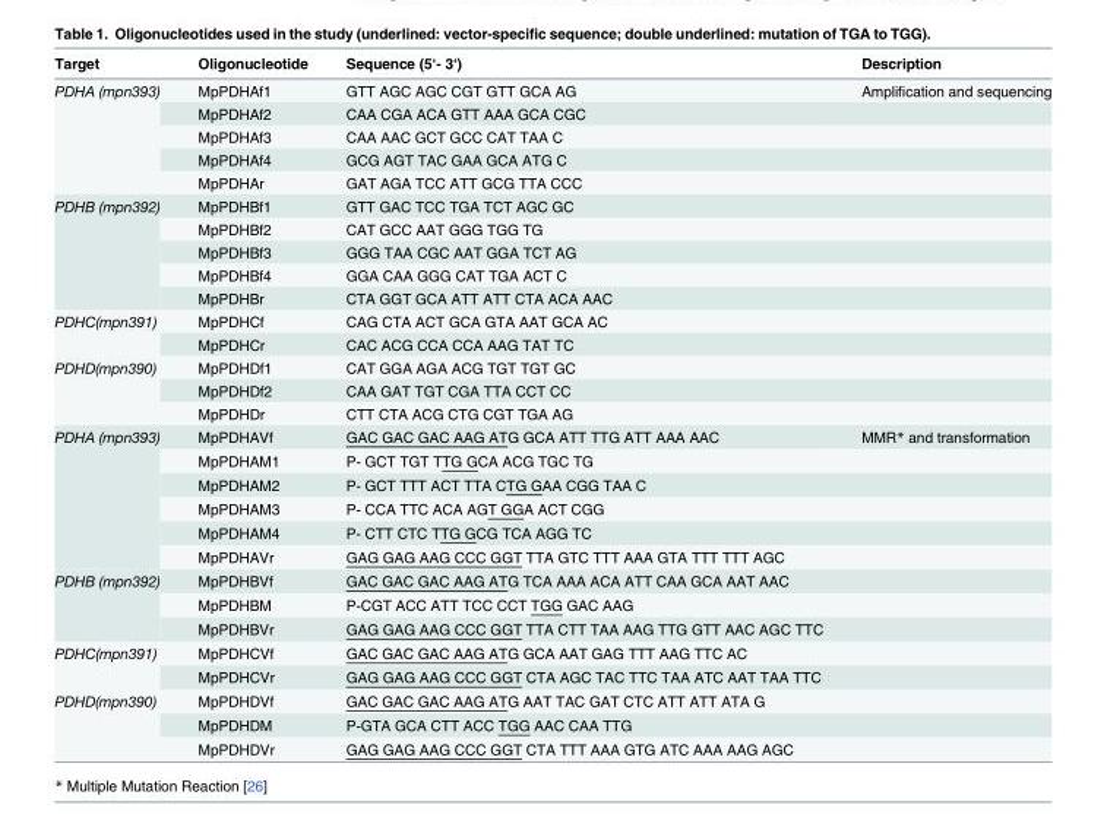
<table><thead><tr><td>Target</td><td>Oligonucleotide</td><td>Sequence (5‘- 3‘)</td><td>Description</td></tr></thead><tbody><tr><td rowspan="5">PDHA (mpn393)</td><td>MpPDHAf1</td><td>GTT AGC AGC CGT GTT GCA AG</td><td>Amplification and sequencing</td></tr><tr><td>MpPDHAf2</td><td>CAA CGA ACA GTT AAA GCA CGC</td><td></td></tr><tr><td>MpPDHAf3</td><td>CAA AAC GCT GCC CAT TAA C</td><td></td></tr><tr><td>MpPDHAf4</td><td>GCG AGT TAC GAA GCA ATG C</td><td></td></tr><tr><td>MpPDHAr</td><td>GAT AGA TCC ATT GCG TTA CCC</td><td></td></tr><tr><td rowspan="5">PDHB (mpn392)</td><td>MpPDHBf1</td><td>GTT GAC TCC TGA TCT AGC GC</td><td></td></tr><tr><td>MpPDHBf2</td><td>CAT GCC AAT GGG TGG TG</td><td></td></tr><tr><td>MpPDHBf3</td><td>GGG TAA CGC AAT GGA TCT AG</td><td></td></tr><tr><td>MpPDHBf4</td><td>GGA CAA GGG CAT TGA ACT C</td><td></td></tr><tr><td>MpPDHBr</td><td>CTA GGT GCA ATT ATT CTA ACA AAC</td><td></td></tr><tr><td rowspan="2">PDHC(mpn391)</td><td>MpPDHCf</td><td>CAG CTA ACT GCA GTA AAT GCA AC</td><td></td></tr><tr><td>MpPDHCr</td><td>CAC ACG CCA CCA AAG TAT TC</td><td></td></tr><tr><td rowspan="3">PDHD(mpn390)</td><td>MpPDHDf1</td><td>CAT GGA AGA ACG TGT TGT GC</td><td></td></tr><tr><td>MpPDHDf2</td><td>CAA GAT TGT CGA TTA CCT CC</td><td></td></tr><tr><td>MpPDHDr</td><td>CTT CTA ACG CTG CGT TGA AG</td><td></td></tr><tr><td rowspan="6">PDHA (mpn393)</td><td>MpPDHAVf</td><td>GAC GAC GAC AAG ATG GCA ATT TTG ATT AAA AAC</td><td>MMR* and transformation</td></tr><tr><td>MpPDHAM1</td><td>P- GCT TGT TTG GCA ACG TGC TG</td><td></td></tr><tr><td>MpPDHAM2</td><td>P- GCT TTT ACT TTA CTG GAA CGG TAA C</td><td></td></tr><tr><td>MpPDHAM3</td><td>P- CCA TTC ACA AGT GGA ACT CGG</td><td></td></tr><tr><td>MpPDHAM4</td><td>P- CTT CTC TTG GCG TCA AGG TC</td><td></td></tr><tr><td>MpPDHAVr</td><td>GAG GAG AAG CCC GGT TTA GTC TTT AAA GTA TTT TTT AGC</td><td></td></tr><tr><td rowspan="3">PDHB (mpn392)</td><td>MpPDHBVf</td><td>GAC GAC GAC AAG ATG TCA AAA ACA ATT CAA GCA AAT AAC</td><td></td></tr><tr><td>MpPDHBM</td><td>P-CGT ACC ATT TCC CCT TGG GAC AAG</td><td></td></tr><tr><td>MpPDHBVr</td><td>GAG GAG AAG CCC GGT TTA CTT TAA AAG TTG GTT AAC AGC TTC</td><td></td></tr><tr><td rowspan="2">PDHC(mpn391)</td><td>MpPDHCVf</td><td>GAC GAC GAC AAG ATG GCA AAT GAG TTT AAG TTC AC</td><td></td></tr><tr><td>MpPDHCVr</td><td>GAG GAG AAG CCC GGT CTA AGC TAC TTC TAA ATC AAT TAA TTC</td><td></td></tr><tr><td rowspan="3">PDHD(mpn390)</td><td>MpPDHDVf</td><td>GAC GAC GAC AAG ATG AAT TAC GAT CTC ATT ATT ATA G</td><td></td></tr><tr><td>MpPDHDM</td><td>P-GTA GCA CTT ACC TGG AAC CAA TTG</td><td></td></tr><tr><td>MpPDHDVr</td><td>GAG GAG AAG CCC GGT CTA TTT AAA GTG ATC AAA AAG AGC</td><td></td></tr></tbody></table>